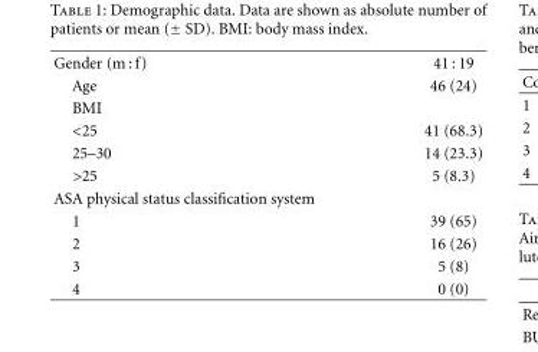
<table><tbody><tr><td>Gender (m : f)</td><td>41 : 19</td></tr><tr><td>Age</td><td>46 (24)</td></tr><tr><td colspan="2">BMI</td></tr><tr><td>&lt;25</td><td>41 (68.3)</td></tr><tr><td>25–30</td><td>14 (23.3)</td></tr><tr><td>&gt;25</td><td>5 (8.3)</td></tr><tr><td colspan="2">ASA physical status classification system</td></tr><tr><td>1</td><td>39 (65)</td></tr><tr><td>2</td><td>16 (26)</td></tr><tr><td>3</td><td>5 (8)</td></tr><tr><td>4</td><td>0 (0)</td></tr></tbody></table>